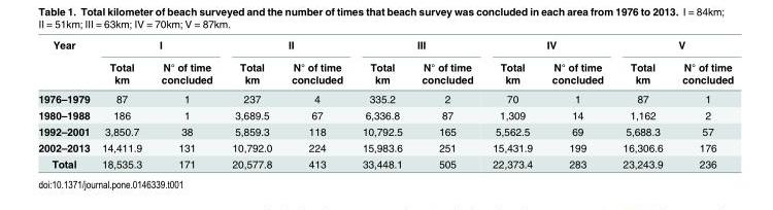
<table><thead><tr><td rowspan="2">Year</td><td colspan="2">I</td><td colspan="2">II</td><td colspan="2">III</td><td colspan="2">IV</td><td colspan="2">V</td></tr><tr><td>Total km</td><td>N° of time concluded</td><td>Total km</td><td>N° of time concluded</td><td>Total km</td><td>N° of time concluded</td><td>Total km</td><td>N° of time concluded</td><td>Total km</td><td>N° of time concluded</td></tr></thead><tbody><tr><td>1976–1979</td><td>87</td><td>1</td><td>237</td><td>4</td><td>335.2</td><td>2</td><td>70</td><td>1</td><td>87</td><td>1</td></tr><tr><td>1980–1988</td><td>186</td><td>1</td><td>3,689.5</td><td>67</td><td>6,336.8</td><td>87</td><td>1,309</td><td>14</td><td>1,162</td><td>2</td></tr><tr><td>1992–2001</td><td>3,850.7</td><td>38</td><td>5,859.3</td><td>118</td><td>10,792.5</td><td>165</td><td>5,562.5</td><td>69</td><td>5,688.3</td><td>57</td></tr><tr><td>2002–2013</td><td>14,411.9</td><td>131</td><td>10,792.0</td><td>224</td><td>15,983.6</td><td>251</td><td>15,431.9</td><td>199</td><td>16,306.6</td><td>176</td></tr><tr><td>Total</td><td>18,535.3</td><td>171</td><td>20,577.8</td><td>413</td><td>33,448.1</td><td>505</td><td>22,373.4</td><td>283</td><td>23,243.9</td><td>236</td></tr></tbody></table>